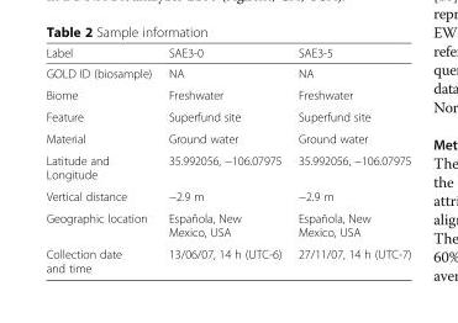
<table><thead><tr><td>Label</td><td>SAE3-0</td><td>SAE3-5</td></tr></thead><tbody><tr><td>GOLD ID (biosample)</td><td>NA</td><td>NA</td></tr><tr><td>Biome</td><td>Freshwater</td><td>Freshwater</td></tr><tr><td>Feature</td><td>Superfund site</td><td>Superfund site</td></tr><tr><td>Material</td><td>Ground water</td><td>Ground water</td></tr><tr><td>Latitude and Longitude</td><td>35.992056, −106.07975</td><td>35.992056, −106.07975</td></tr><tr><td>Vertical distance</td><td>−2.9 m</td><td>−2.9 m</td></tr><tr><td>Geographic location</td><td>Española, New Mexico, USA</td><td>Española, New Mexico, USA</td></tr><tr><td>Collection date and time</td><td>13/06/07, 14 h (UTC-6)</td><td>27/11/07, 14 h (UTC-7)</td></tr></tbody></table>